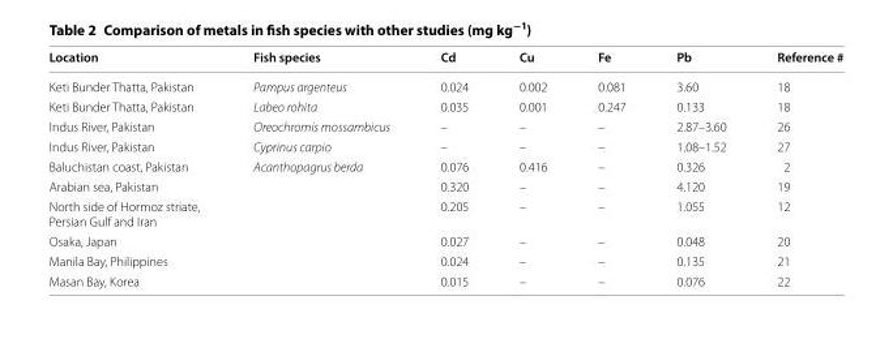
<table><thead><tr><td>Location</td><td>Fish species</td><td>Cd</td><td>Cu</td><td>Fe</td><td>Pb</td><td>Reference #</td></tr></thead><tbody><tr><td>Keti Bunder Thatta, Pakistan</td><td>Pampus argenteus</td><td>0.024</td><td>0.002</td><td>0.081</td><td>3.60</td><td>18</td></tr><tr><td>Keti Bunder Thatta, Pakistan</td><td>Labeo rohita</td><td>0.035</td><td>0.001</td><td>0.247</td><td>0.133</td><td>18</td></tr><tr><td>Indus River, Pakistan</td><td>Oreochromis mossambicus</td><td>–</td><td>–</td><td>–</td><td>2.87–3.60</td><td>26</td></tr><tr><td>Indus River, Pakistan</td><td>Cyprinus carpio</td><td>–</td><td>–</td><td>–</td><td>1.08–1.52</td><td>27</td></tr><tr><td>Baluchistan coast, Pakistan</td><td>Acanthopagrus berda</td><td>0.076</td><td>0.416</td><td>–</td><td>0.326</td><td>2</td></tr><tr><td>Arabian sea, Pakistan</td><td></td><td>0.320</td><td>–</td><td>–</td><td>4.120</td><td>19</td></tr><tr><td>North side of Hormoz striate, Persian Gulf and Iran</td><td></td><td>0.205</td><td>–</td><td>–</td><td>1.055</td><td>12</td></tr><tr><td>Osaka, Japan</td><td></td><td>0.027</td><td>–</td><td>–</td><td>0.048</td><td>20</td></tr><tr><td>Manila Bay, Philippines</td><td></td><td>0.024</td><td>–</td><td>–</td><td>0.135</td><td>21</td></tr><tr><td>Masan Bay, Korea</td><td></td><td>0.015</td><td>–</td><td>–</td><td>0.076</td><td>22</td></tr></tbody></table>